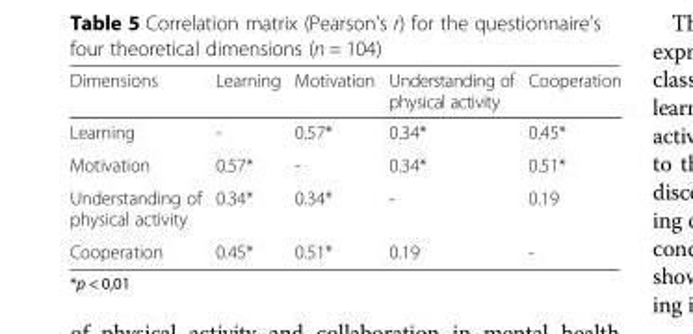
<table><thead><tr><td>Dimensions</td><td>Learning</td><td>Motivation</td><td>Understanding of physical activity</td><td>Cooperation</td></tr></thead><tbody><tr><td>Learning</td><td>-</td><td>0.57*</td><td>0.34*</td><td>0.45*</td></tr><tr><td>Motivation</td><td>0.57*</td><td>-</td><td>0.34*</td><td>0.51*</td></tr><tr><td>Understanding of physical activity</td><td>0.34*</td><td>0.34*</td><td>-</td><td>0.19</td></tr><tr><td>Cooperation</td><td>0.45*</td><td>0.51*</td><td>0.19</td><td>-</td></tr></tbody></table>